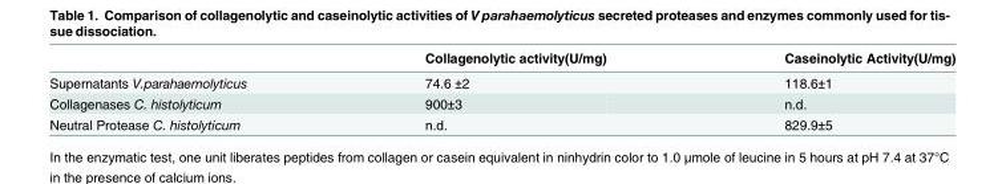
<table><thead><tr><td></td><td>Collagenolytic activity(U/mg)</td><td>Caseinolytic Activity(U/mg)</td></tr></thead><tbody><tr><td>Supernatants V.parahaemolyticus</td><td>74.6 ±2</td><td>118.6±1</td></tr><tr><td>Collagenases C. histolyticum</td><td>900±3</td><td>n.d.</td></tr><tr><td>Neutral Protease C. histolyticum</td><td>n.d.</td><td>829.9±5</td></tr></tbody></table>